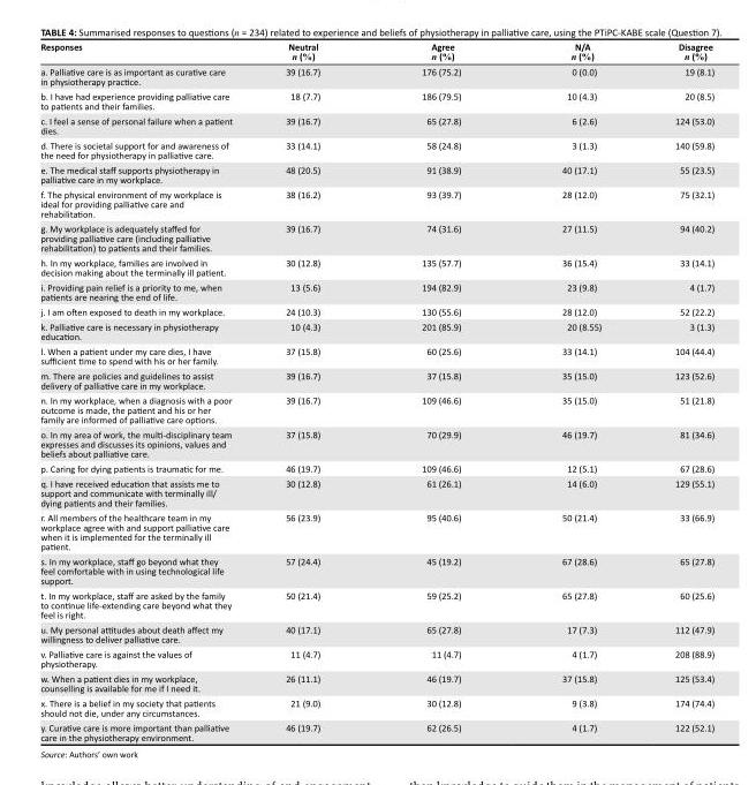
<table><thead><tr><td>Responses</td><td>Neutral n (%)</td><td>Agree n (%)</td><td>N/A n (%)</td><td>Disagree n (%)</td></tr></thead><tbody><tr><td>a. Palliative care is as important as curative care in physiotherapy practice.</td><td>39 (16.7)</td><td>176 (75.2)</td><td>0 (0.0)</td><td>19 (8.1)</td></tr><tr><td>b. I have had experience providing palliative care to patients and their families.</td><td>18 (7.7)</td><td>186 (79.5)</td><td>10 (4.3)</td><td>20 (8.5)</td></tr><tr><td>c. I feel a sense of personal failure when a patient dies.</td><td>39 (16.7)</td><td>65 (27.8)</td><td>6 (2.6)</td><td>124 (53.0)</td></tr><tr><td>d. There is societal support for and awareness of the need for physiotherapy in palliative care.</td><td>33 (14.1)</td><td>58 (24.8)</td><td>3 (1.3)</td><td>140 (59.8)</td></tr><tr><td>e. The medical staff supports physiotherapy in palliative care in my workplace.</td><td>48 (20.5)</td><td>91 (38.9)</td><td>40 (17.1)</td><td>55 (23.5)</td></tr><tr><td>f. The physical environment of my workplace is ideal for providing palliative care and rehabilitation.</td><td>38 (16.2)</td><td>93 (39.7)</td><td>28 (12.0)</td><td>75 (32.1)</td></tr><tr><td>g. My workplace is adequately staffed for providing palliative care (including palliative rehabilitation) to patients and their families.</td><td>39 (16.7)</td><td>74 (31.6)</td><td>27 (11.5)</td><td>94 (40.2)</td></tr><tr><td>h. In my workplace, families are involved in decision making about the terminally ill patient.</td><td>30 (12.8)</td><td>135 (57.7)</td><td>36 (15.4)</td><td>33 (14.1)</td></tr><tr><td>i. Providing pain relief is a priority to me, when patients are nearing the end of life.</td><td>13 (5.6)</td><td>194 (82.9)</td><td>23 (9.8)</td><td>4 (1.7)</td></tr><tr><td>j. I am often exposed to death in my workplace.</td><td>24 (10.3)</td><td>130 (55.6)</td><td>28 (12.0)</td><td>52 (22.2)</td></tr><tr><td>k. Palliative care is necessary in physiotherapy education.</td><td>10 (4.3)</td><td>201 (85.9)</td><td>20 (8.55)</td><td>3 (1.3)</td></tr><tr><td>l. When a patient under my care dies, I have sufficient time to spend with his or her family.</td><td>37 (15.8)</td><td>60 (25.6)</td><td>33 (14.1)</td><td>104 (44.4)</td></tr><tr><td>m. There are policies and guidelines to assist delivery of palliative care in my workplace.</td><td>39 (16.7)</td><td>37 (15.8)</td><td>35 (15.0)</td><td>123 (52.6)</td></tr><tr><td>n. In my workplace, when a diagnosis with a poor outcome is made, the patient and his or her family are informed of palliative care options.</td><td>39 (16.7)</td><td>109 (46.6)</td><td>35 (15.0)</td><td>51 (21.8)</td></tr><tr><td>o. In my area of work, the multi-disciplinary team expresses and discusses its opinions, values and beliefs about palliative care.</td><td>37 (15.8)</td><td>70 (29.9)</td><td>46 (19.7)</td><td>81 (34.6)</td></tr><tr><td>p. Caring for dying patients is traumatic for me.</td><td>46 (19.7)</td><td>109 (46.6)</td><td>12 (5.1)</td><td>67 (28.6)</td></tr><tr><td>q. I have received education that assists me to support and communicate with terminally ill/ dying patients and their families.</td><td>30 (12.8)</td><td>61 (26.1)</td><td>14 (6.0)</td><td>129 (55.1)</td></tr><tr><td>r. All members of the healthcare team in my workplace agree with and support palliative care when it is implemented for the terminally ill patient.</td><td>56 (23.9)</td><td>95 (40.6)</td><td>50 (21.4)</td><td>33 (66.9)</td></tr><tr><td>s. In my workplace, staff go beyond what they feel comfortable with in using technological life support.</td><td>57 (24.4)</td><td>45 (19.2)</td><td>67 (28.6)</td><td>65 (27.8)</td></tr><tr><td>t. In my workplace, staff are asked by the family to continue life-extending care beyond what they feel is right.</td><td>50 (21.4)</td><td>59 (25.2)</td><td>65 (27.8)</td><td>60 (25.6)</td></tr><tr><td>u. My personal attitudes about death affect my willingness to deliver palliative care.</td><td>40 (17.1)</td><td>65 (27.8)</td><td>17 (7.3)</td><td>112 (47.9)</td></tr><tr><td>v. Palliative care is against the values of physiotherapy.</td><td>11 (4.7)</td><td>11 (4.7)</td><td>4 (1.7)</td><td>208 (88.9)</td></tr><tr><td>w. When a patient dies in my workplace, counselling is available for me if I need it.</td><td>26 (11.1)</td><td>46 (19.7)</td><td>37 (15.8)</td><td>125 (53.4)</td></tr><tr><td>x. There is a belief in my society that patients should not die, under any circumstances.</td><td>21 (9.0)</td><td>30 (12.8)</td><td>9 (3.8)</td><td>174 (74.4)</td></tr><tr><td>y. Curative care is more important than palliative care in the physiotherapy environment.</td><td>46 (19.7)</td><td>62 (26.5)</td><td>4 (1.7)</td><td>122 (52.1)</td></tr></tbody></table>